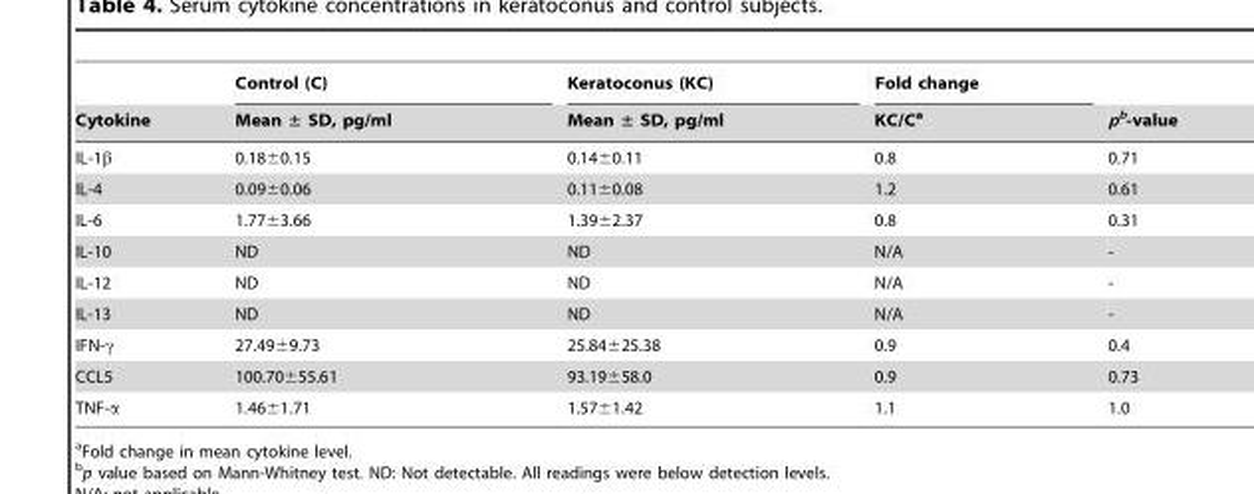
<table><thead><tr><td rowspan="2">Cytokine</td><td rowspan="2">Control (C) Mean ± SD, pg/ml</td><td rowspan="2">Keratoconus (KC) Mean ± SD, pg/ml</td><td rowspan="2">Fold change KC/C<sup>a</sup></td><td rowspan="2">pb-value</td></tr><tr></tr></thead><tbody><tr><td>IL-1β</td><td>0.18±0.15</td><td>0.14±0.11</td><td>0.8</td><td>0.71</td></tr><tr><td>IL-4</td><td>0.09±0.06</td><td>0.11±0.08</td><td>1.2</td><td>0.61</td></tr><tr><td>IL-6</td><td>1.77±3.66</td><td>1.39±2.37</td><td>0.8</td><td>0.31</td></tr><tr><td>IL-10</td><td>ND</td><td>ND</td><td>N/A</td><td>-</td></tr><tr><td>IL-12</td><td>ND</td><td>ND</td><td>N/A</td><td>-</td></tr><tr><td>IL-13</td><td>ND</td><td>ND</td><td>N/A</td><td>-</td></tr><tr><td>IFN-γ</td><td>27.49±9.73</td><td>25.84±25.38</td><td>0.9</td><td>0.4</td></tr><tr><td>CCL5</td><td>100.70±55.61</td><td>93.19±58.0</td><td>0.9</td><td>0.73</td></tr><tr><td>TNF-α</td><td>1.46±1.71</td><td>1.57±1.42</td><td>1.1</td><td>1.0</td></tr></tbody></table>